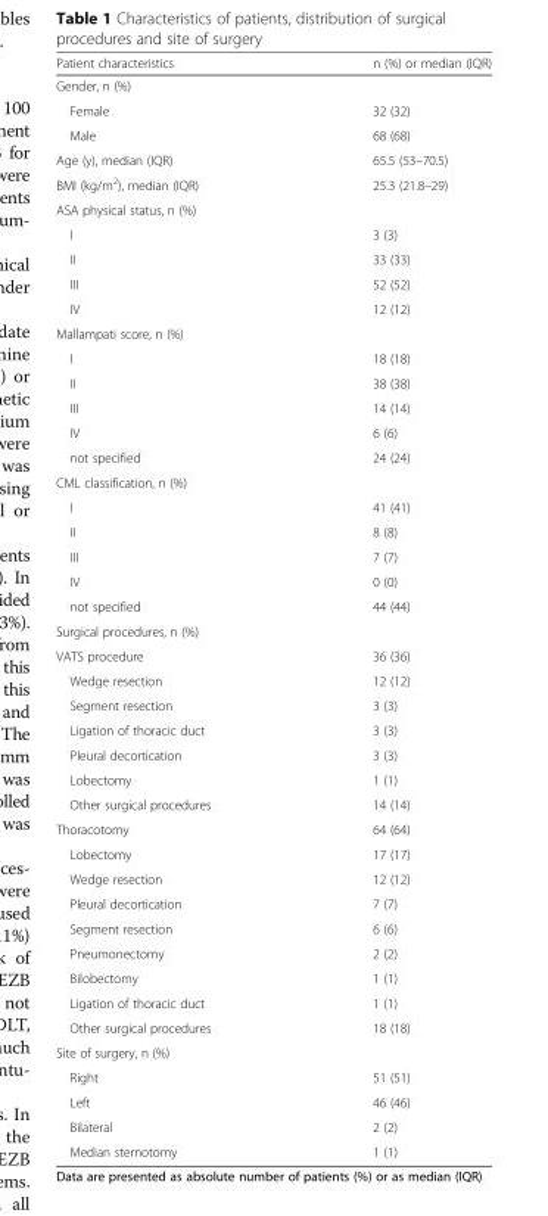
<table><thead><tr><td>Patient characteristics</td><td>n (%) or median (IQR)</td></tr></thead><tbody><tr><td colspan="2">Gender, n (%)</td></tr><tr><td>Female</td><td>32 (32)</td></tr><tr><td>Male</td><td>68 (68)</td></tr><tr><td>Age (y), median (IQR)</td><td>65.5 (53–70.5)</td></tr><tr><td>BMI (kg/m<sup>2</sup>), median (IQR)</td><td>25.3 (21.8–29)</td></tr><tr><td colspan="2">ASA physical status, n (%)</td></tr><tr><td>I</td><td>3 (3)</td></tr><tr><td>II</td><td>33 (33)</td></tr><tr><td>III</td><td>52 (52)</td></tr><tr><td>IV</td><td>12 (12)</td></tr><tr><td colspan="2">Mallampati score, n (%)</td></tr><tr><td>I</td><td>18 (18)</td></tr><tr><td>II</td><td>38 (38)</td></tr><tr><td>III</td><td>14 (14)</td></tr><tr><td>IV</td><td>6 (6)</td></tr><tr><td>not specified</td><td>24 (24)</td></tr><tr><td colspan="2">CML classification, n (%)</td></tr><tr><td>I</td><td>41 (41)</td></tr><tr><td>II</td><td>8 (8)</td></tr><tr><td>III</td><td>7 (7)</td></tr><tr><td>IV</td><td>0 (0)</td></tr><tr><td>not specified</td><td>44 (44)</td></tr><tr><td colspan="2">Surgical procedures, n (%)</td></tr><tr><td>VATS procedure</td><td>36 (36)</td></tr><tr><td>Wedge resection</td><td>12 (12)</td></tr><tr><td>Segment resection</td><td>3 (3)</td></tr><tr><td>Ligation of thoracic duct</td><td>3 (3)</td></tr><tr><td>Pleural decortication</td><td>3 (3)</td></tr><tr><td>Lobectomy</td><td>1 (1)</td></tr><tr><td>Other surgical procedures</td><td>14 (14)</td></tr><tr><td>Thoracotomy</td><td>64 (64)</td></tr><tr><td>Lobectomy</td><td>17 (17)</td></tr><tr><td>Wedge resection</td><td>12 (12)</td></tr><tr><td>Pleural decortication</td><td>7 (7)</td></tr><tr><td>Segment resection</td><td>6 (6)</td></tr><tr><td>Pneumonectomy</td><td>2 (2)</td></tr><tr><td>Bilobectomy</td><td>1 (1)</td></tr><tr><td>Ligation of thoracic duct</td><td>1 (1)</td></tr><tr><td>Other surgical procedures</td><td>18 (18)</td></tr><tr><td colspan="2">Site of surgery, n (%)</td></tr><tr><td>Right</td><td>51 (51)</td></tr><tr><td>Left</td><td>46 (46)</td></tr><tr><td>Bilateral</td><td>2 (2)</td></tr><tr><td>Median sternotomy</td><td>1 (1)</td></tr></tbody></table>